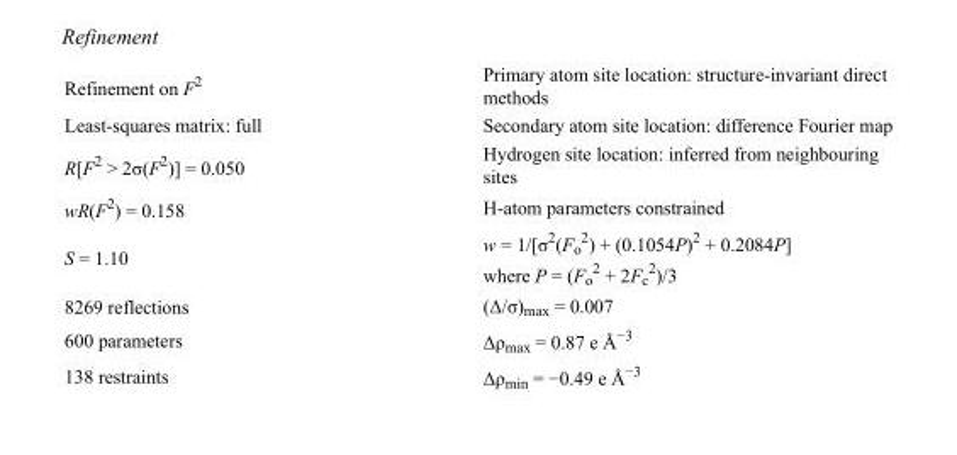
<table><tbody><tr><td>Refinement on F<sup>2</sup></td><td>Primary atom site location: structure-invariant direct methods</td></tr><tr><td>Least-squares matrix: full</td><td>Secondary atom site location: difference Fourier map</td></tr><tr><td>R[F<sup>2</sup> &gt; 2σ(F<sup>2</sup>)] = 0.050</td><td>Hydrogen site location: inferred from neighbouring sites</td></tr><tr><td>wR(F<sup>2</sup>) = 0.158</td><td>H-atom parameters constrained</td></tr><tr><td>S = 1.10</td><td>w = 1/[σ<sup>2</sup>(F<sub>o</sub> <sup>2</sup>) + (0.1054P)<sup>2</sup> + 0.2084P] where P = (F<sub>o</sub> <sup>2</sup> + 2F<sub>c</sub> <sup>2</sup>)/3</td></tr><tr><td>8269 reflections</td><td>(Δ/σ)<sub>max</sub> = 0.007</td></tr><tr><td>600 parameters</td><td>Δρ<sub>max</sub> = 0.87 e Å<sup>−3</sup></td></tr><tr><td>138 restraints</td><td>Δρ<sub>min</sub> = −0.49 e Å<sup>−3</sup></td></tr></tbody></table>